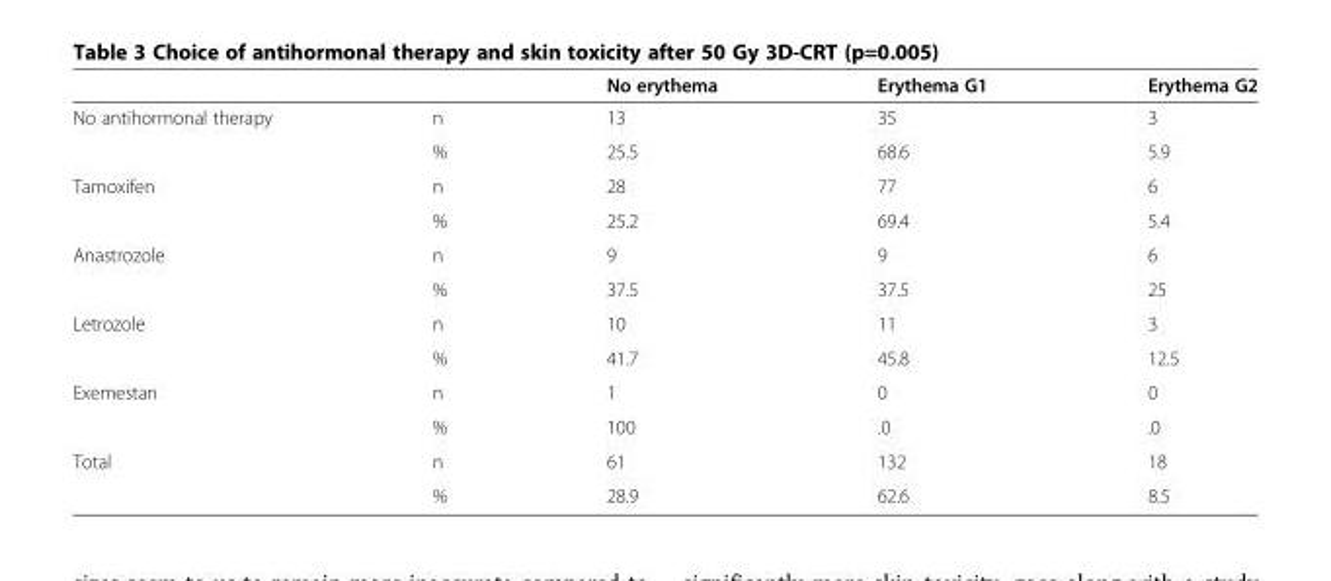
<table><thead><tr><td></td><td></td><td>No erythema</td><td>Erythema G1</td><td>Erythema G2</td></tr></thead><tbody><tr><td rowspan="2">No antihormonal therapy</td><td>n</td><td>13</td><td>35</td><td>3</td></tr><tr><td>%</td><td>25.5</td><td>68.6</td><td>5.9</td></tr><tr><td rowspan="2">Tamoxifen</td><td>n</td><td>28</td><td>77</td><td>6</td></tr><tr><td>%</td><td>25.2</td><td>69.4</td><td>5.4</td></tr><tr><td rowspan="2">Anastrozole</td><td>n</td><td>9</td><td>9</td><td>6</td></tr><tr><td>%</td><td>37.5</td><td>37.5</td><td>25</td></tr><tr><td rowspan="2">Letrozole</td><td>n</td><td>10</td><td>11</td><td>3</td></tr><tr><td>%</td><td>41.7</td><td>45.8</td><td>12.5</td></tr><tr><td rowspan="2">Exemestan</td><td>n</td><td>1</td><td>0</td><td>0</td></tr><tr><td>%</td><td>100</td><td>.0</td><td>.0</td></tr><tr><td rowspan="2">Total</td><td>n</td><td>61</td><td>132</td><td>18</td></tr><tr><td>%</td><td>28.9</td><td>62.6</td><td>8.5</td></tr></tbody></table>